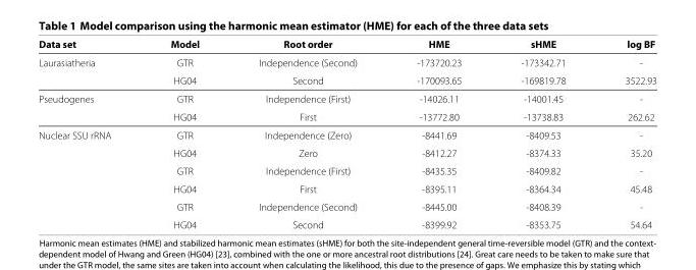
<table><thead><tr><td>Data set</td><td>Model</td><td>Root order</td><td>HME</td><td>sHME</td><td>log BF</td></tr></thead><tbody><tr><td rowspan="2">Laurasiatheria</td><td>GTR</td><td>Independence (Second)</td><td>-173720.23</td><td>-173342.71</td><td>-</td></tr><tr><td>HG04</td><td>Second</td><td>-170093.65</td><td>-169819.78</td><td>3522.93</td></tr><tr><td rowspan="2">Pseudogenes</td><td>GTR</td><td>Independence (First)</td><td>-14026.11</td><td>-14001.45</td><td>-</td></tr><tr><td>HG04</td><td>First</td><td>-13772.80</td><td>-13738.83</td><td>262.62</td></tr><tr><td rowspan="6">Nuclear SSU rRNA</td><td>GTR</td><td>Independence (Zero)</td><td>-8441.69</td><td>-8409.53</td><td>-</td></tr><tr><td>HG04</td><td>Zero</td><td>-8412.27</td><td>-8374.33</td><td>35.20</td></tr><tr><td>GTR</td><td>Independence (First)</td><td>-8435.35</td><td>-8409.82</td><td>-</td></tr><tr><td>HG04</td><td>First</td><td>-8395.11</td><td>-8364.34</td><td>45.48</td></tr><tr><td>GTR</td><td>Independence (Second)</td><td>-8445.00</td><td>-8408.39</td><td>-</td></tr><tr><td>HG04</td><td>Second</td><td>-8399.92</td><td>-8353.75</td><td>54.64</td></tr></tbody></table>